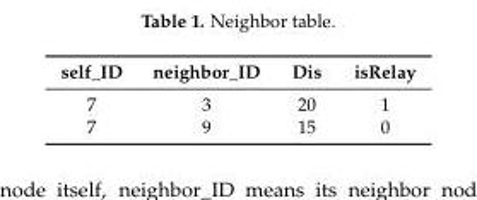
<table><thead><tr><td>self_ID</td><td>neighbor_ID</td><td>Dis</td><td>isRelay</td></tr></thead><tbody><tr><td>7</td><td>3</td><td>20</td><td>1</td></tr><tr><td>7</td><td>9</td><td>15</td><td>0</td></tr></tbody></table>